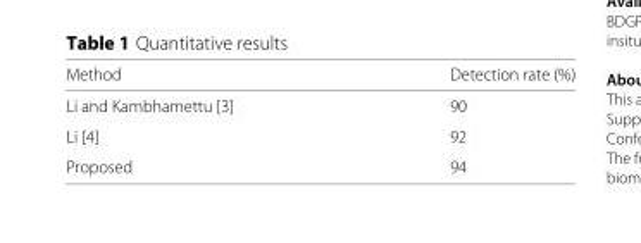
<table><thead><tr><td>Method</td><td>Detection rate (%)</td></tr></thead><tbody><tr><td>Li and Kambhamettu [3]</td><td>90</td></tr><tr><td>Li [4]</td><td>92</td></tr><tr><td>Proposed</td><td>94</td></tr></tbody></table>